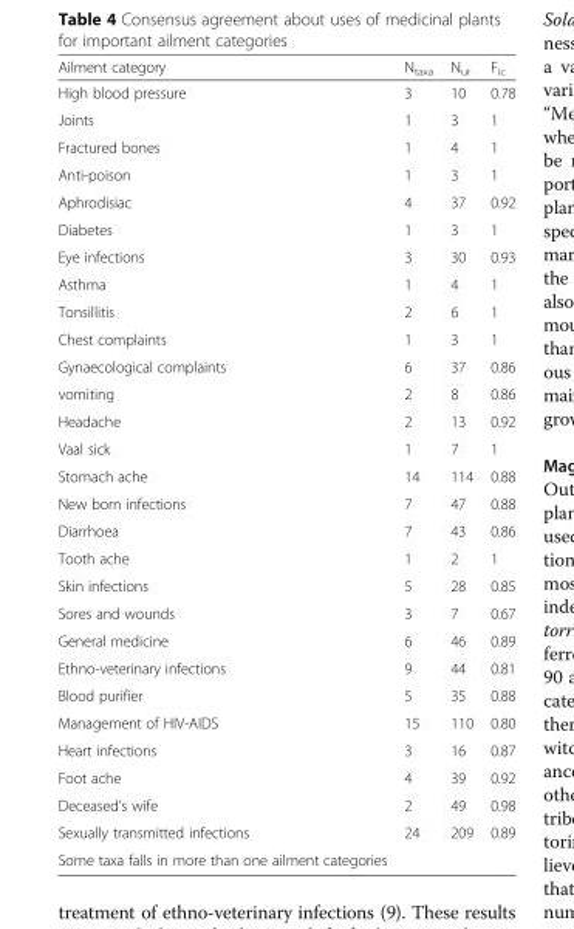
<table><thead><tr><td>Ailment category</td><td>N<sub>taxa</sub></td><td>N<sub>ur</sub></td><td>F<sub>ic</sub></td></tr></thead><tbody><tr><td>High blood pressure</td><td>3</td><td>10</td><td>0.78</td></tr><tr><td>Joints</td><td>1</td><td>3</td><td>1</td></tr><tr><td>Fractured bones</td><td>1</td><td>4</td><td>1</td></tr><tr><td>Anti-poison</td><td>1</td><td>3</td><td>1</td></tr><tr><td>Aphrodisiac</td><td>4</td><td>37</td><td>0.92</td></tr><tr><td>Diabetes</td><td>1</td><td>3</td><td>1</td></tr><tr><td>Eye infections</td><td>3</td><td>30</td><td>0.93</td></tr><tr><td>Asthma</td><td>1</td><td>4</td><td>1</td></tr><tr><td>Tonsillitis</td><td>2</td><td>6</td><td>1</td></tr><tr><td>Chest complaints</td><td>1</td><td>3</td><td>1</td></tr><tr><td>Gynaecological complaints</td><td>6</td><td>37</td><td>0.86</td></tr><tr><td>vomiting</td><td>2</td><td>8</td><td>0.86</td></tr><tr><td>Headache</td><td>2</td><td>13</td><td>0.92</td></tr><tr><td>Vaal sick</td><td>1</td><td>7</td><td>1</td></tr><tr><td>Stomach ache</td><td>14</td><td>114</td><td>0.88</td></tr><tr><td>New born infections</td><td>7</td><td>47</td><td>0.88</td></tr><tr><td>Diarrhoea</td><td>7</td><td>43</td><td>0.86</td></tr><tr><td>Tooth ache</td><td>1</td><td>2</td><td>1</td></tr><tr><td>Skin infections</td><td>5</td><td>28</td><td>0.85</td></tr><tr><td>Sores and wounds</td><td>3</td><td>7</td><td>0.67</td></tr><tr><td>General medicine</td><td>6</td><td>46</td><td>0.89</td></tr><tr><td>Ethno-veterinary infections</td><td>9</td><td>44</td><td>0.81</td></tr><tr><td>Blood purifier</td><td>5</td><td>35</td><td>0.88</td></tr><tr><td>Management of HIV-AIDS</td><td>15</td><td>110</td><td>0.80</td></tr><tr><td>Heart infections</td><td>3</td><td>16</td><td>0.87</td></tr><tr><td>Foot ache</td><td>4</td><td>39</td><td>0.92</td></tr><tr><td>Deceased’s wife</td><td>2</td><td>49</td><td>0.98</td></tr><tr><td>Sexually transmitted infections</td><td>24</td><td>209</td><td>0.89</td></tr><tr><td>Some taxa falls in more than one ailment categories</td><td colspan="3"></td></tr></tbody></table>